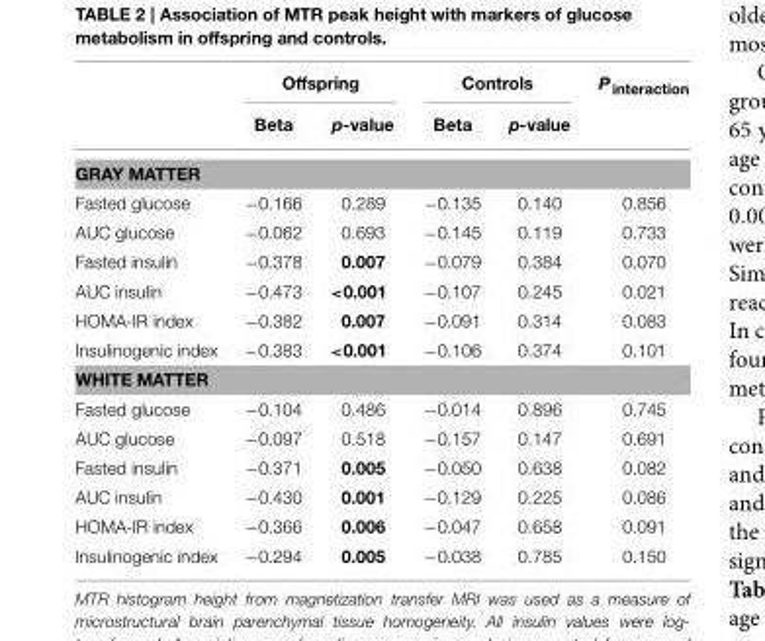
<table><thead><tr><td rowspan="2"></td><td colspan="2">Offspring</td><td colspan="2">Controls</td><td rowspan="2">P <sub>interaction</sub></td></tr><tr><td>Beta</td><td>p-value</td><td>Beta</td><td>p-value</td></tr></thead><tbody><tr><td colspan="6">GRAY MATTER</td></tr><tr><td>Fasted glucose</td><td>−0.166</td><td>0.289</td><td>−0.135</td><td>0.140</td><td>0.856</td></tr><tr><td>AUC glucose</td><td>−0.062</td><td>0.693</td><td>−0.145</td><td>0.119</td><td>0.733</td></tr><tr><td>Fasted insulin</td><td>−0.378</td><td>0.007</td><td>−0.079</td><td>0.384</td><td>0.070</td></tr><tr><td>AUC insulin</td><td>−0.473</td><td>&lt;0.001</td><td>−0.107</td><td>0.245</td><td>0.021</td></tr><tr><td>HOMA-IR index</td><td>−0.382</td><td>0.007</td><td>−0.091</td><td>0.314</td><td>0.083</td></tr><tr><td>Insulinogenic index</td><td>−0.383</td><td>&lt;0.001</td><td>−0.106</td><td>0.374</td><td>0.101</td></tr><tr><td colspan="6">WHITE MATTER</td></tr><tr><td>Fasted glucose</td><td>−0.104</td><td>0.486</td><td>−0.014</td><td>0.896</td><td>0.745</td></tr><tr><td>AUC glucose</td><td>−0.097</td><td>0.518</td><td>−0.157</td><td>0.147</td><td>0.691</td></tr><tr><td>Fasted insulin</td><td>−0.371</td><td>0.005</td><td>−0.050</td><td>0.638</td><td>0.082</td></tr><tr><td>AUC insulin</td><td>−0.430</td><td>0.001</td><td>−0.129</td><td>0.225</td><td>0.086</td></tr><tr><td>HOMA-IR index</td><td>−0.366</td><td>0.006</td><td>−0.047</td><td>0.658</td><td>0.091</td></tr><tr><td>Insulinogenic index</td><td>−0.294</td><td>0.005</td><td>−0.038</td><td>0.785</td><td>0.150</td></tr></tbody></table>